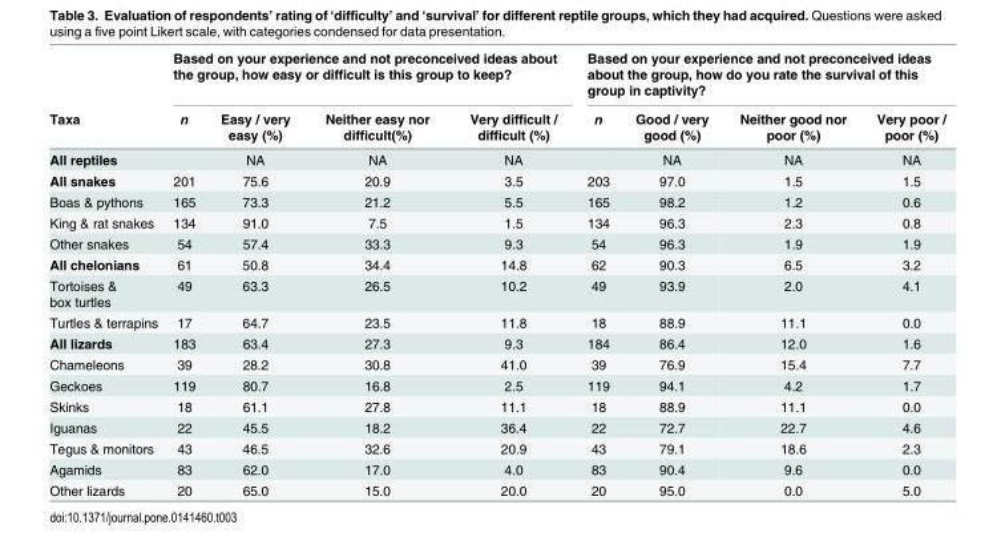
<table><thead><tr><td rowspan="2">Taxa</td><td colspan="4">Based on your experience and not preconceived ideas about the group, how easy or difficult is this group to keep?</td><td colspan="4">Based on your experience and not preconceived ideas about the group, how do you rate the survival of this group in captivity?</td></tr><tr><td>n</td><td>Easy / very easy (%)</td><td>Neither easy nor difficult(%)</td><td>Very difficult / difficult (%)</td><td>n</td><td>Good / very good (%)</td><td>Neither good nor poor (%)</td><td>Very poor / poor (%)</td></tr></thead><tbody><tr><td>All reptiles</td><td></td><td>NA</td><td>NA</td><td>NA</td><td></td><td>NA</td><td>NA</td><td>NA</td></tr><tr><td>All snakes</td><td>201</td><td>75.6</td><td>20.9</td><td>3.5</td><td>203</td><td>97.0</td><td>1.5</td><td>1.5</td></tr><tr><td>Boas &amp; pythons</td><td>165</td><td>73.3</td><td>21.2</td><td>5.5</td><td>165</td><td>98.2</td><td>1.2</td><td>0.6</td></tr><tr><td>King &amp; rat snakes</td><td>134</td><td>91.0</td><td>7.5</td><td>1.5</td><td>134</td><td>96.3</td><td>2.3</td><td>0.8</td></tr><tr><td>Other snakes</td><td>54</td><td>57.4</td><td>33.3</td><td>9.3</td><td>54</td><td>96.3</td><td>1.9</td><td>1.9</td></tr><tr><td>All chelonians</td><td>61</td><td>50.8</td><td>34.4</td><td>14.8</td><td>62</td><td>90.3</td><td>6.5</td><td>3.2</td></tr><tr><td>Tortoises &amp; box turtles</td><td>49</td><td>63.3</td><td>26.5</td><td>10.2</td><td>49</td><td>93.9</td><td>2.0</td><td>4.1</td></tr><tr><td>Turtles &amp; terrapins</td><td>17</td><td>64.7</td><td>23.5</td><td>11.8</td><td>18</td><td>88.9</td><td>11.1</td><td>0.0</td></tr><tr><td>All lizards</td><td>183</td><td>63.4</td><td>27.3</td><td>9.3</td><td>184</td><td>86.4</td><td>12.0</td><td>1.6</td></tr><tr><td>Chameleons</td><td>39</td><td>28.2</td><td>30.8</td><td>41.0</td><td>39</td><td>76.9</td><td>15.4</td><td>7.7</td></tr><tr><td>Geckoes</td><td>119</td><td>80.7</td><td>16.8</td><td>2.5</td><td>119</td><td>94.1</td><td>4.2</td><td>1.7</td></tr><tr><td>Skinks</td><td>18</td><td>61.1</td><td>27.8</td><td>11.1</td><td>18</td><td>88.9</td><td>11.1</td><td>0.0</td></tr><tr><td>Iguanas</td><td>22</td><td>45.5</td><td>18.2</td><td>36.4</td><td>22</td><td>72.7</td><td>22.7</td><td>4.6</td></tr><tr><td>Tegus &amp; monitors</td><td>43</td><td>46.5</td><td>32.6</td><td>20.9</td><td>43</td><td>79.1</td><td>18.6</td><td>2.3</td></tr><tr><td>Agamids</td><td>83</td><td>62.0</td><td>17.0</td><td>4.0</td><td>83</td><td>90.4</td><td>9.6</td><td>0.0</td></tr><tr><td>Other lizards</td><td>20</td><td>65.0</td><td>15.0</td><td>20.0</td><td>20</td><td>95.0</td><td>0.0</td><td>5.0</td></tr></tbody></table>